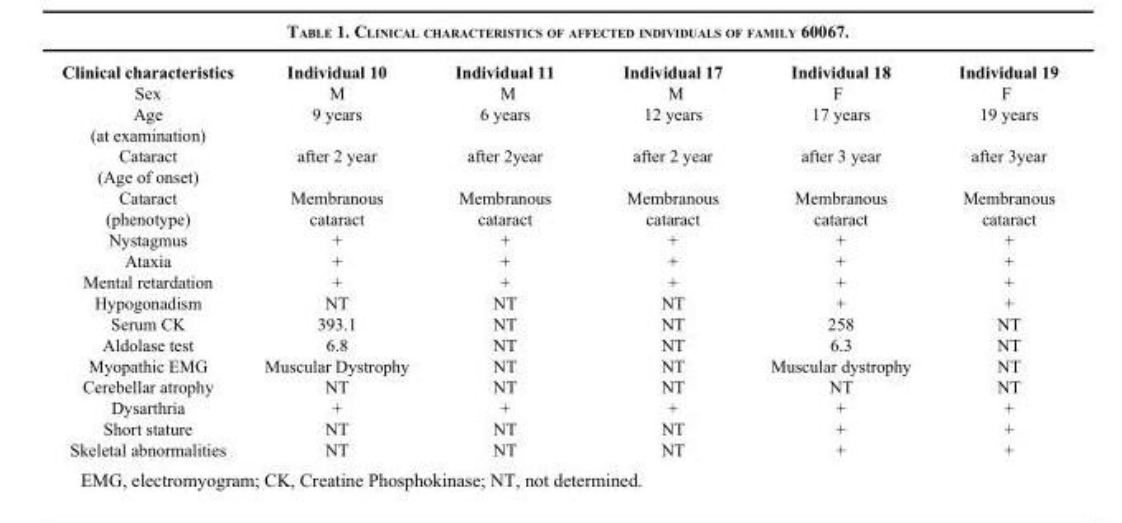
<table><thead><tr><td>Clinical characteristics</td><td>Individual 10</td><td>Individual 11</td><td>Individual 17</td><td>Individual 18</td><td>Individual 19</td></tr></thead><tbody><tr><td>Sex</td><td>M</td><td>M</td><td>M</td><td>F</td><td>F</td></tr><tr><td>Age (at examination)</td><td>9 years</td><td>6 years</td><td>12 years</td><td>17 years</td><td>19 years</td></tr><tr><td>Cataract (Age of onset)</td><td>after 2 year</td><td>after 2year</td><td>after 2 year</td><td>after 3 year</td><td>after 3year</td></tr><tr><td>Cataract (phenotype)</td><td>Membranous cataract</td><td>Membranous cataract</td><td>Membranous cataract</td><td>Membranous cataract</td><td>Membranous cataract</td></tr><tr><td>Nystagmus</td><td>+</td><td>+</td><td>+</td><td>+</td><td>+</td></tr><tr><td>Ataxia</td><td>+</td><td>+</td><td>+</td><td>+</td><td>+</td></tr><tr><td>Mental retardation</td><td>+</td><td>+</td><td>+</td><td>+</td><td>+</td></tr><tr><td>Hypogonadism</td><td>NT</td><td>NT</td><td>NT</td><td>+</td><td>+</td></tr><tr><td>Serum CK</td><td>393.1</td><td>NT</td><td>NT</td><td>258</td><td>NT</td></tr><tr><td>Aldolase test</td><td>6.8</td><td>NT</td><td>NT</td><td>6.3</td><td>NT</td></tr><tr><td>Myopathic EMG</td><td>Muscular Dystrophy</td><td>NT</td><td>NT</td><td>Muscular dystrophy</td><td>NT</td></tr><tr><td>Cerebellar atrophy</td><td>NT</td><td>NT</td><td>NT</td><td>NT</td><td>NT</td></tr><tr><td>Dysarthria</td><td>+</td><td>+</td><td>+</td><td>+</td><td>+</td></tr><tr><td>Short stature</td><td>NT</td><td>NT</td><td>NT</td><td>+</td><td>+</td></tr><tr><td>Skeletal abnormalities</td><td>NT</td><td>NT</td><td>NT</td><td>+</td><td>+</td></tr></tbody></table>